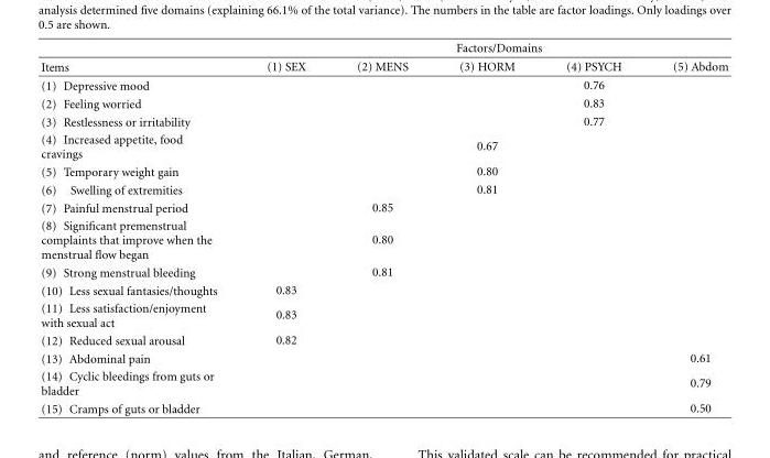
<table><thead><tr><td rowspan="2">Items</td><td colspan="5">Factors/Domains</td></tr><tr><td>(1) SEX</td><td>(2) MENS</td><td>(3) HORM</td><td>(4) PSYCH</td><td>(5) Abdom</td></tr></thead><tbody><tr><td>(1) Depressive mood</td><td></td><td></td><td></td><td>0.76</td><td></td></tr><tr><td>(2) Feeling worried</td><td></td><td></td><td></td><td>0.83</td><td></td></tr><tr><td>(3) Restlessness or irritability</td><td></td><td></td><td></td><td>0.77</td><td></td></tr><tr><td>(4) Increased appetite, food cravings</td><td></td><td></td><td>0.67</td><td></td><td></td></tr><tr><td>(5) Temporary weight gain</td><td></td><td></td><td>0.80</td><td></td><td></td></tr><tr><td>(6) Swelling of extremities</td><td></td><td></td><td>0.81</td><td></td><td></td></tr><tr><td>(7) Painful menstrual period</td><td></td><td>0.85</td><td></td><td></td><td></td></tr><tr><td>(8) Significant premenstrual complaints that improve when the menstrual flow began</td><td></td><td>0.80</td><td></td><td></td><td></td></tr><tr><td>(9) Strong menstrual bleeding</td><td></td><td>0.81</td><td></td><td></td><td></td></tr><tr><td>(10) Less sexual fantasies/thoughts</td><td>0.83</td><td></td><td></td><td></td><td></td></tr><tr><td>(11) Less satisfaction/enjoyment with sexual act</td><td>0.83</td><td></td><td></td><td></td><td></td></tr><tr><td>(12) Reduced sexual arousal</td><td>0.82</td><td></td><td></td><td></td><td></td></tr><tr><td>(13) Abdominal pain</td><td></td><td></td><td></td><td></td><td>0.61</td></tr><tr><td>(14) Cyclic bleedings from guts or bladder</td><td></td><td></td><td></td><td></td><td>0.79</td></tr><tr><td>(15) Cramps of guts or bladder</td><td></td><td></td><td></td><td></td><td>0.50</td></tr></tbody></table>